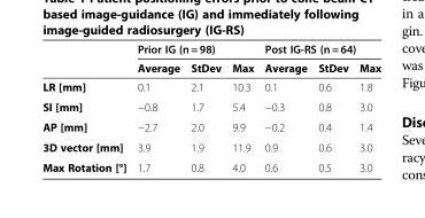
<table><thead><tr><td rowspan="2"></td><td colspan="3">Prior IG (n = 98)</td><td colspan="3">Post IG-RS (n = 64)</td></tr><tr><td>Average</td><td>StDev</td><td>Max</td><td>Average</td><td>StDev</td><td>Max</td></tr></thead><tbody><tr><td>LR [mm]</td><td>0.1</td><td>2.1</td><td>10.3</td><td>0.1</td><td>0.6</td><td>1.8</td></tr><tr><td>SI [mm]</td><td>−0.8</td><td>1.7</td><td>5.4</td><td>−0.3</td><td>0.8</td><td>3.0</td></tr><tr><td>AP [mm]</td><td>−2.7</td><td>2.0</td><td>9.9</td><td>−0.2</td><td>0.4</td><td>1.4</td></tr><tr><td>3D vector [mm]</td><td>3.9</td><td>1.9</td><td>11.9</td><td>0.9</td><td>0.6</td><td>3.0</td></tr><tr><td>Max Rotation [°]</td><td>1.7</td><td>0.8</td><td>4.0</td><td>0.6</td><td>0.5</td><td>3.0</td></tr></tbody></table>